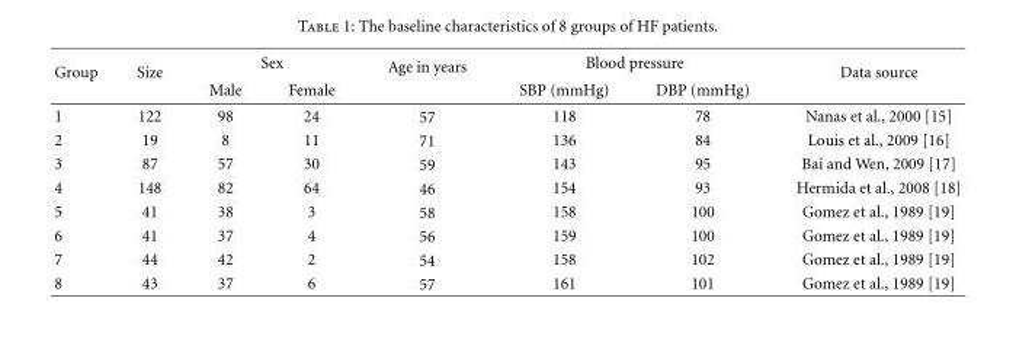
<table><thead><tr><td rowspan="2">Group</td><td rowspan="2">Size</td><td colspan="2">Sex</td><td rowspan="2">Age in years</td><td colspan="2">Blood pressure</td><td rowspan="2">Data source</td></tr><tr><td>Male</td><td>Female</td><td>SBP (mmHg)</td><td>DBP (mmHg)</td></tr></thead><tbody><tr><td>1</td><td>122</td><td>98</td><td>24</td><td>57</td><td>118</td><td>78</td><td>Nanas et al., 2000 [15]</td></tr><tr><td>2</td><td>19</td><td>8</td><td>11</td><td>71</td><td>136</td><td>84</td><td>Louis et al., 2009 [16]</td></tr><tr><td>3</td><td>87</td><td>57</td><td>30</td><td>59</td><td>143</td><td>95</td><td>Bai and Wen, 2009 [17]</td></tr><tr><td>4</td><td>148</td><td>82</td><td>64</td><td>46</td><td>154</td><td>93</td><td>Hermida et al., 2008 [18]</td></tr><tr><td>5</td><td>41</td><td>38</td><td>3</td><td>58</td><td>158</td><td>100</td><td>Gomez et al., 1989 [19]</td></tr><tr><td>6</td><td>41</td><td>37</td><td>4</td><td>56</td><td>159</td><td>100</td><td>Gomez et al., 1989 [19]</td></tr><tr><td>7</td><td>44</td><td>42</td><td>2</td><td>54</td><td>158</td><td>102</td><td>Gomez et al., 1989 [19]</td></tr><tr><td>8</td><td>43</td><td>37</td><td>6</td><td>57</td><td>161</td><td>101</td><td>Gomez et al., 1989 [19]</td></tr></tbody></table>